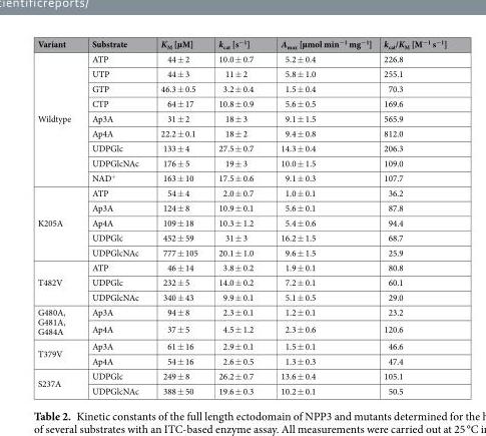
<table><thead><tr><td>Variant</td><td>Substrate</td><td>K<sub>M</sub> [µM]</td><td>k<sub>cat</sub> [s<sup>−1</sup>]</td><td>A<sub>max</sub> [µmol min<sup>−1</sup> mg<sup>−1</sup>]</td><td>k<sub>cat</sub>/K<sub>M</sub> [M<sup>−1</sup> s<sup>−1</sup>]</td></tr></thead><tbody><tr><td rowspan="9">Wildtype</td><td>ATP</td><td>44 ± 2</td><td>10.0 ± 0.7</td><td>5.2 ± 0.4</td><td>226.8</td></tr><tr><td>UTP</td><td>44 ± 3</td><td>11 ± 2</td><td>5.8 ± 1.0</td><td>255.1</td></tr><tr><td>GTP</td><td>46.3 ± 0.5</td><td>3.2 ± 0.4</td><td>1.5 ± 0.4</td><td>70.3</td></tr><tr><td>CTP</td><td>64 ± 17</td><td>10.8 ± 0.9</td><td>5.6 ± 0.5</td><td>169.6</td></tr><tr><td>Ap3A</td><td>31 ± 2</td><td>18 ± 3</td><td>9.1 ± 1.5</td><td>565.9</td></tr><tr><td>Ap4A</td><td>22.2 ± 0.1</td><td>18 ± 2</td><td>9.4 ± 0.8</td><td>812.0</td></tr><tr><td>UDPGlc</td><td>133 ± 4</td><td>27.5 ± 0.7</td><td>14.3 ± 0.4</td><td>206.3</td></tr><tr><td>UDPGlcNAc</td><td>176 ± 5</td><td>19 ± 3</td><td>10.0 ± 1.5</td><td>109.0</td></tr><tr><td>NAD<sup>+</sup></td><td>163 ± 10</td><td>17.5 ± 0.6</td><td>9.1 ± 0.3</td><td>107.7</td></tr><tr><td rowspan="5">K205A</td><td>ATP</td><td>54 ± 4</td><td>2.0 ± 0.7</td><td>1.0 ± 0.1</td><td>36.2</td></tr><tr><td>Ap3A</td><td>124 ± 8</td><td>10.9 ± 0.1</td><td>5.6 ± 0.1</td><td>87.8</td></tr><tr><td>Ap4A</td><td>109 ± 18</td><td>10.3 ± 1.2</td><td>5.4 ± 0.6</td><td>94.4</td></tr><tr><td>UDPGlc</td><td>452 ± 59</td><td>31 ± 3</td><td>16.2 ± 1.5</td><td>68.7</td></tr><tr><td>UDPGlcNAc</td><td>777 ± 105</td><td>20.1 ± 1.0</td><td>9.6 ± 1.5</td><td>25.9</td></tr><tr><td rowspan="3">T482V</td><td>ATP</td><td>46 ± 14</td><td>3.8 ± 0.2</td><td>1.9 ± 0.1</td><td>80.8</td></tr><tr><td>UDPGlc</td><td>232 ± 5</td><td>14.0 ± 0.2</td><td>7.2 ± 0.1</td><td>60.1</td></tr><tr><td>UDPGlcNAc</td><td>340 ± 43</td><td>9.9 ± 0.1</td><td>5.1 ± 0.5</td><td>29.0</td></tr><tr><td rowspan="2">G480A, G481A, G484A</td><td>Ap3A</td><td>94 ± 8</td><td>2.3 ± 0.1</td><td>1.2 ± 0.1</td><td>23.2</td></tr><tr><td>Ap4A</td><td>37 ± 5</td><td>4.5 ± 1.2</td><td>2.3 ± 0.6</td><td>120.6</td></tr><tr><td rowspan="2">T379V</td><td>Ap3A</td><td>61 ± 16</td><td>2.9 ± 0.1</td><td>1.5 ± 0.1</td><td>46.6</td></tr><tr><td>Ap4A</td><td>54 ± 16</td><td>2.6 ± 0.5</td><td>1.3 ± 0.3</td><td>47.4</td></tr><tr><td rowspan="2">S237A</td><td>UDPGlc</td><td>249 ± 8</td><td>26.2 ± 0.7</td><td>13.6 ± 0.4</td><td>105.1</td></tr><tr><td>UDPGlcNAc</td><td>388 ± 50</td><td>19.6 ± 0.3</td><td>10.2 ± 0.1</td><td>50.5</td></tr></tbody></table>